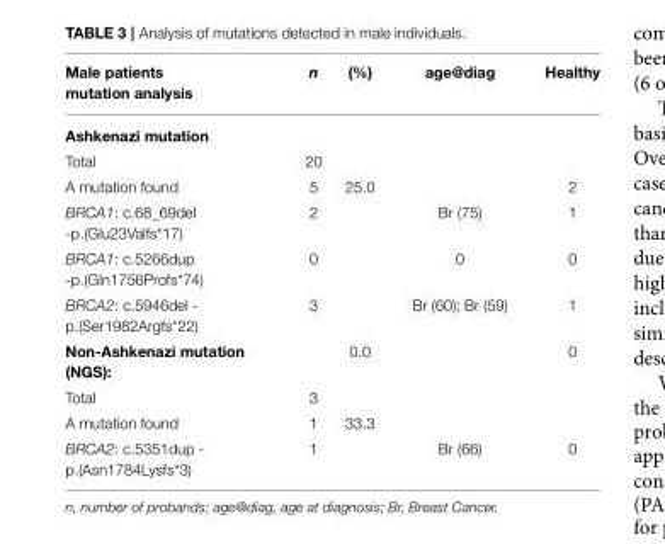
<table><thead><tr><td>Male patients mutation analysis</td><td>n</td><td>(%)</td><td>age@diag</td><td>Healthy</td></tr></thead><tbody><tr><td colspan="5">Ashkenazi mutation</td></tr><tr><td>Total</td><td>20</td><td></td><td></td><td></td></tr><tr><td>A mutation found</td><td>5</td><td>25.0</td><td></td><td>2</td></tr><tr><td>BRCA1: c.68_69del -p.(Glu23Valfs*17)</td><td>2</td><td></td><td>Br (75)</td><td>1</td></tr><tr><td>BRCA1: c.5266dup -p.(Gln1756Profs*74)</td><td>0</td><td></td><td>0</td><td>0</td></tr><tr><td>BRCA2: c.5946del - p.(Ser1982Argfs*22)</td><td>3</td><td></td><td>Br (60); Br (59)</td><td>1</td></tr><tr><td>Non-Ashkenazi mutation (NGS):</td><td></td><td>0.0</td><td></td><td>0</td></tr><tr><td>Total</td><td>3</td><td></td><td></td><td></td></tr><tr><td>A mutation found</td><td>1</td><td>33.3</td><td></td><td></td></tr><tr><td>BRCA2: c.5351dup - p.(Asn1784Lysfs*3)</td><td>1</td><td></td><td>Br (66)</td><td>0</td></tr></tbody></table>